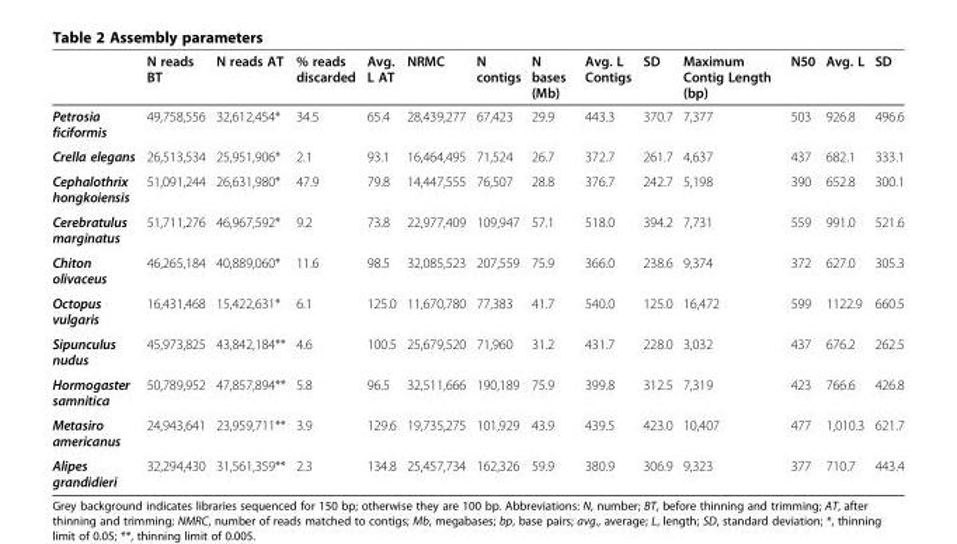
<table><thead><tr><td></td><td>N reads BT</td><td>N reads AT</td><td>% reads discarded</td><td>Avg. L AT</td><td>NRMC</td><td>N contigs</td><td>N bases (Mb)</td><td>Avg. L Contigs</td><td>SD</td><td>Maximum Contig Length (bp)</td><td>N50</td><td>Avg. L</td><td>SD</td></tr></thead><tbody><tr><td>Petrosia ficiformis</td><td>49,758,556</td><td>32,612,454*</td><td>34.5</td><td>65.4</td><td>28,439,277</td><td>67,423</td><td>29.9</td><td>443.3</td><td>370.7</td><td>7,377</td><td>503</td><td>926.8</td><td>496.6</td></tr><tr><td>Crella elegans</td><td>26,513,534</td><td>25,951,906*</td><td>2.1</td><td>93.1</td><td>16,464,495</td><td>71,524</td><td>26.7</td><td>372.7</td><td>261.7</td><td>4,637</td><td>437</td><td>682.1</td><td>333.1</td></tr><tr><td>Cephalothrix hongkoiensis</td><td>51,091,244</td><td>26,631,980*</td><td>47.9</td><td>79.8</td><td>14,447,555</td><td>76,507</td><td>28.8</td><td>376.7</td><td>242.7</td><td>5,198</td><td>390</td><td>652.8</td><td>300.1</td></tr><tr><td>Cerebratulus marginatus</td><td>51,711,276</td><td>46,967,592*</td><td>9.2</td><td>73.8</td><td>22,977,409</td><td>109,947</td><td>57.1</td><td>518.0</td><td>394.2</td><td>7,731</td><td>559</td><td>991.0</td><td>521.6</td></tr><tr><td>Chiton olivaceus</td><td>46,265,184</td><td>40,889,060*</td><td>11.6</td><td>98.5</td><td>32,085,523</td><td>207,559</td><td>75.9</td><td>366.0</td><td>238.6</td><td>9,374</td><td>372</td><td>627.0</td><td>305.3</td></tr><tr><td>Octopus vulgaris</td><td>16,431,468</td><td>15,422,631*</td><td>6.1</td><td>125.0</td><td>11,670,780</td><td>77,383</td><td>41.7</td><td>540.0</td><td>125.0</td><td>16,472</td><td>599</td><td>1122.9</td><td>660.5</td></tr><tr><td>Sipunculus nudus</td><td>45,973,825</td><td>43,842,184**</td><td>4.6</td><td>100.5</td><td>25,679,520</td><td>71,960</td><td>31.2</td><td>431.7</td><td>228.0</td><td>3,032</td><td>437</td><td>676.2</td><td>262.5</td></tr><tr><td>Hormogaster samnitica</td><td>50,789,952</td><td>47,857,894**</td><td>5.8</td><td>96.5</td><td>32,511,666</td><td>190,189</td><td>75.9</td><td>399.8</td><td>312.5</td><td>7,319</td><td>423</td><td>766.6</td><td>426.8</td></tr><tr><td>Metasiro americanus</td><td>24,943,641</td><td>23,959,711**</td><td>3.9</td><td>129.6</td><td>19,735,275</td><td>101,929</td><td>43.9</td><td>439.5</td><td>423.0</td><td>10,407</td><td>477</td><td>1,010.3</td><td>621.7</td></tr><tr><td>Alipes grandidieri</td><td>32,294,430</td><td>31,561,359**</td><td>2.3</td><td>134.8</td><td>25,457,734</td><td>162,326</td><td>59.9</td><td>380.9</td><td>306.9</td><td>9,323</td><td>377</td><td>710.7</td><td>443.4</td></tr></tbody></table>